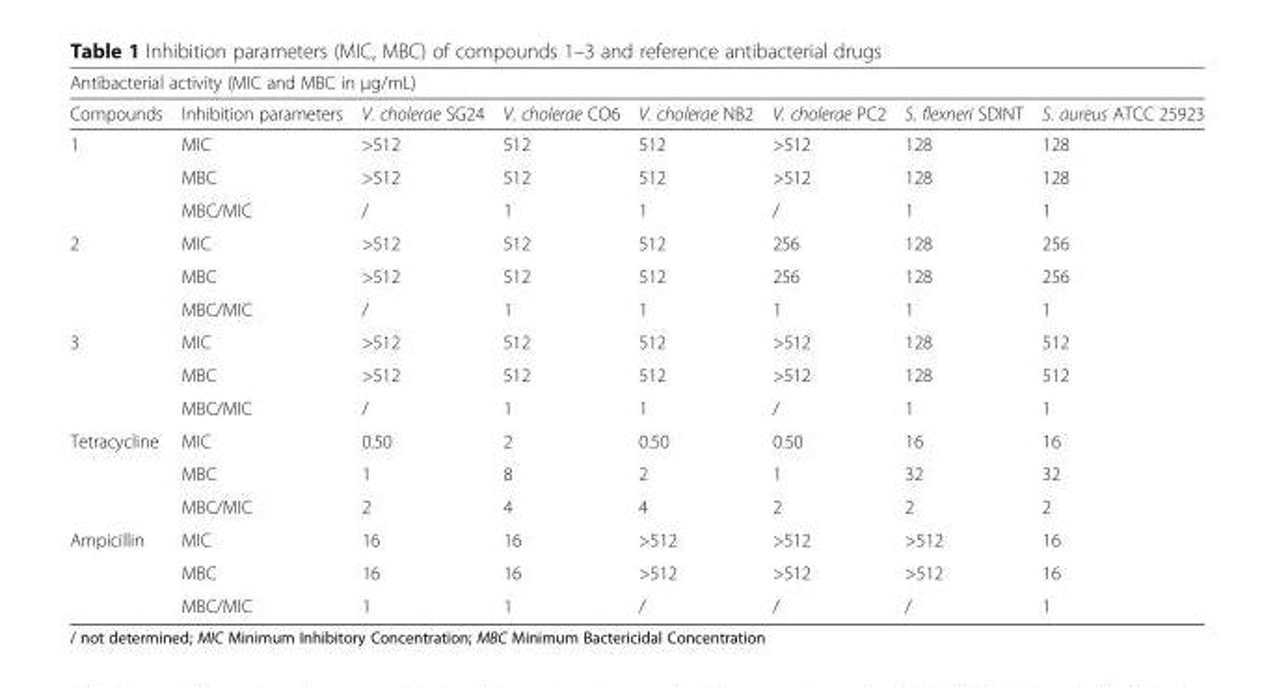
<table><thead><tr><td colspan="8">Antibacterial activity (MIC and MBC in μg/mL)</td></tr><tr><td>Compounds</td><td>Inhibition parameters</td><td>V. cholerae SG24</td><td>V. cholerae CO6</td><td>V. cholerae NB2</td><td>V. cholerae PC2</td><td>S. flexneri SDINT</td><td>S. aureus ATCC 25923</td></tr></thead><tbody><tr><td rowspan="3">1</td><td>MIC</td><td>&gt;512</td><td>512</td><td>512</td><td>&gt;512</td><td>128</td><td>128</td></tr><tr><td>MBC</td><td>&gt;512</td><td>512</td><td>512</td><td>&gt;512</td><td>128</td><td>128</td></tr><tr><td>MBC/MIC</td><td>/</td><td>1</td><td>1</td><td>/</td><td>1</td><td>1</td></tr><tr><td rowspan="3">2</td><td>MIC</td><td>&gt;512</td><td>512</td><td>512</td><td>256</td><td>128</td><td>256</td></tr><tr><td>MBC</td><td>&gt;512</td><td>512</td><td>512</td><td>256</td><td>128</td><td>256</td></tr><tr><td>MBC/MIC</td><td>/</td><td>1</td><td>1</td><td>1</td><td>1</td><td>1</td></tr><tr><td rowspan="3">3</td><td>MIC</td><td>&gt;512</td><td>512</td><td>512</td><td>&gt;512</td><td>128</td><td>512</td></tr><tr><td>MBC</td><td>&gt;512</td><td>512</td><td>512</td><td>&gt;512</td><td>128</td><td>512</td></tr><tr><td>MBC/MIC</td><td>/</td><td>1</td><td>1</td><td>/</td><td>1</td><td>1</td></tr><tr><td rowspan="3">Tetracycline</td><td>MIC</td><td>0.50</td><td>2</td><td>0.50</td><td>0.50</td><td>16</td><td>16</td></tr><tr><td>MBC</td><td>1</td><td>8</td><td>2</td><td>1</td><td>32</td><td>32</td></tr><tr><td>MBC/MIC</td><td>2</td><td>4</td><td>4</td><td>2</td><td>2</td><td>2</td></tr><tr><td rowspan="3">Ampicillin</td><td>MIC</td><td>16</td><td>16</td><td>&gt;512</td><td>&gt;512</td><td>&gt;512</td><td>16</td></tr><tr><td>MBC</td><td>16</td><td>16</td><td>&gt;512</td><td>&gt;512</td><td>&gt;512</td><td>16</td></tr><tr><td>MBC/MIC</td><td>1</td><td>1</td><td>/</td><td>/</td><td>/</td><td>1</td></tr></tbody></table>